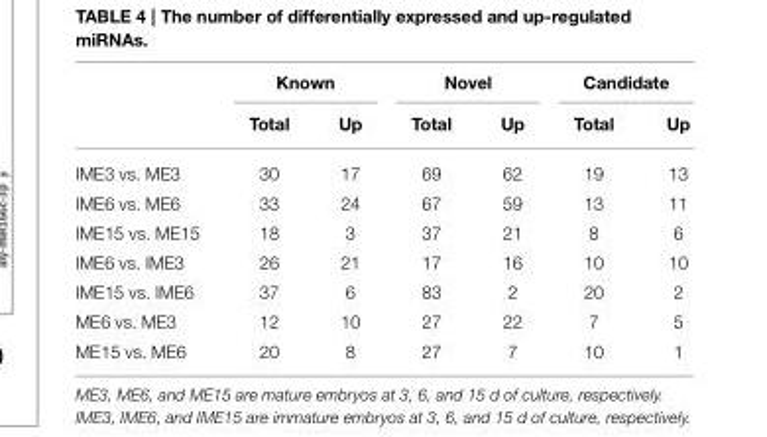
<table><thead><tr><td rowspan="2"></td><td colspan="2">Known</td><td colspan="2">Novel</td><td colspan="2">Candidate</td></tr><tr><td>Total</td><td>Up</td><td>Total</td><td>Up</td><td>Total</td><td>Up</td></tr></thead><tbody><tr><td>IME3 vs. ME3</td><td>30</td><td>17</td><td>69</td><td>62</td><td>19</td><td>13</td></tr><tr><td>IME6 vs. ME6</td><td>33</td><td>24</td><td>67</td><td>59</td><td>13</td><td>11</td></tr><tr><td>IME15 vs. ME15</td><td>18</td><td>3</td><td>37</td><td>21</td><td>8</td><td>6</td></tr><tr><td>IME6 vs. IME3</td><td>26</td><td>21</td><td>17</td><td>16</td><td>10</td><td>10</td></tr><tr><td>IME15 vs. IME6</td><td>37</td><td>6</td><td>83</td><td>2</td><td>20</td><td>2</td></tr><tr><td>ME6 vs. ME3</td><td>12</td><td>10</td><td>27</td><td>22</td><td>7</td><td>5</td></tr><tr><td>ME15 vs. ME6</td><td>20</td><td>8</td><td>27</td><td>7</td><td>10</td><td>1</td></tr></tbody></table>